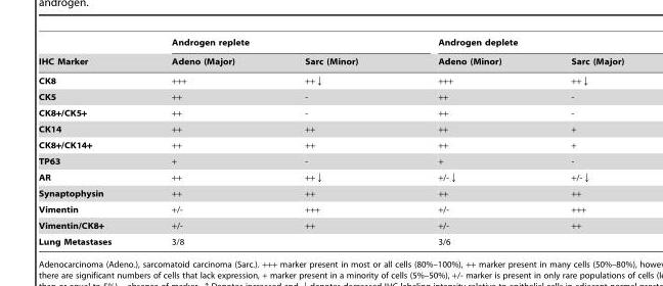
<table><thead><tr><td rowspan="2">IHC Marker</td><td colspan="2">Androgen replete</td><td colspan="2">Androgen deplete</td></tr><tr><td>Adeno (Major)</td><td>Sarc (Minor)</td><td>Adeno (Minor)</td><td>Sarc (Major)</td></tr></thead><tbody><tr><td>CK8</td><td>+++</td><td>++↓</td><td>+++</td><td>++↓</td></tr><tr><td>CK5</td><td>++</td><td>-</td><td>++</td><td>-</td></tr><tr><td>CK8+/CK5+</td><td>++</td><td>-</td><td>++</td><td>-</td></tr><tr><td>CK14</td><td>++</td><td>++</td><td>++</td><td>+</td></tr><tr><td>CK8+/CK14+</td><td>++</td><td>++</td><td>++</td><td>+</td></tr><tr><td>TP63</td><td>+</td><td>-</td><td>+</td><td>-</td></tr><tr><td>AR</td><td>++</td><td>++↓</td><td>+/-↓</td><td>+/-↓</td></tr><tr><td>Synaptophysin</td><td>++</td><td>++</td><td>++</td><td>++</td></tr><tr><td>Vimentin</td><td>+/-</td><td>+++</td><td>+/-</td><td>+++</td></tr><tr><td>Vimentin/CK8+</td><td>+/-</td><td>++</td><td>+/-</td><td>++</td></tr><tr><td>Lung Metastases</td><td colspan="2">3/8</td><td colspan="2">3/6</td></tr></tbody></table>